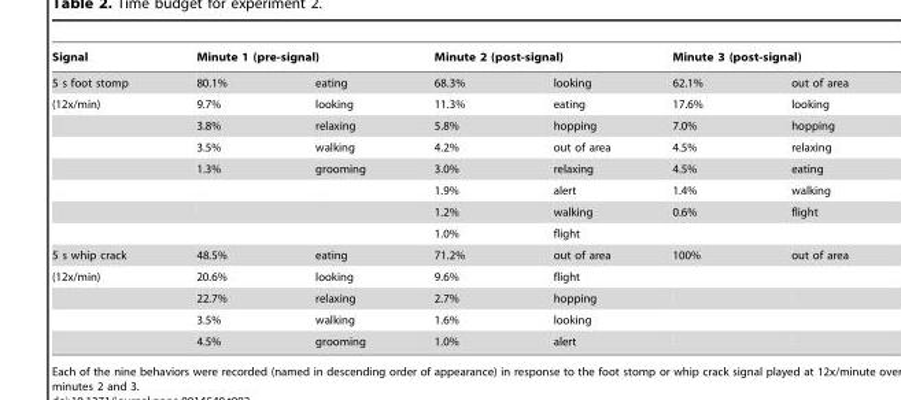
<table><thead><tr><td rowspan="2">Signal 5 s foot stomp</td><td colspan="2">Minute 1 (pre-signal)</td><td colspan="2">Minute 2 (post-signal)</td><td colspan="2">Minute 3 (post-signal)</td></tr><tr><td>80.1%</td><td>eating</td><td>68.3%</td><td>looking</td><td>62.1%</td><td>out of area</td></tr></thead><tbody><tr><td rowspan="7">(12x/min)</td><td>9.7%</td><td>looking</td><td>11.3%</td><td>eating</td><td>17.6%</td><td>looking</td></tr><tr><td>3.8%</td><td>relaxing</td><td>5.8%</td><td>hopping</td><td>7.0%</td><td>hopping</td></tr><tr><td>3.5%</td><td>walking</td><td>4.2%</td><td>out of area</td><td>4.5%</td><td>relaxing</td></tr><tr><td>1.3%</td><td>grooming</td><td>3.0%</td><td>relaxing</td><td>4.5%</td><td>eating</td></tr><tr><td></td><td></td><td>1.9%</td><td>alert</td><td>1.4%</td><td>walking</td></tr><tr><td></td><td></td><td>1.2%</td><td>walking</td><td>0.6%</td><td>flight</td></tr><tr><td></td><td></td><td>1.0%</td><td>flight</td><td></td><td></td></tr><tr><td>5 s whip crack</td><td>48.5%</td><td>eating</td><td>71.2%</td><td>out of area</td><td>100%</td><td>out of area</td></tr><tr><td rowspan="4">(12x/min)</td><td>20.6%</td><td>looking</td><td>9.6%</td><td>flight</td><td></td><td></td></tr><tr><td>22.7%</td><td>relaxing</td><td>2.7%</td><td>hopping</td><td></td><td></td></tr><tr><td>3.5%</td><td>walking</td><td>1.6%</td><td>looking</td><td></td><td></td></tr><tr><td>4.5%</td><td>grooming</td><td>1.0%</td><td>alert</td><td></td><td></td></tr></tbody></table>